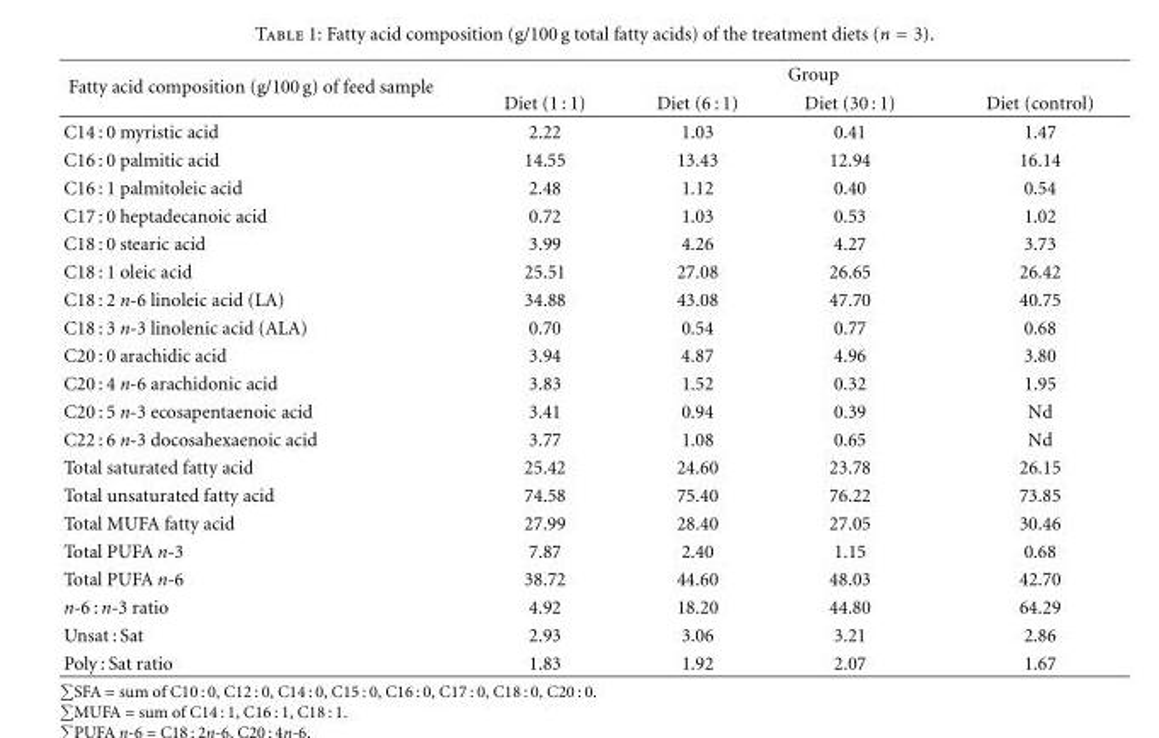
<table><thead><tr><td rowspan="2">Fatty acid composition (g/100 g) of feed sample</td><td colspan="4">Group</td></tr><tr><td>Diet (1 : 1)</td><td>Diet (6 : 1)</td><td>Diet (30 : 1)</td><td>Diet (control)</td></tr></thead><tbody><tr><td>C14 : 0 myristic acid</td><td>2.22</td><td>1.03</td><td>0.41</td><td>1.47</td></tr><tr><td>C16 : 0 palmitic acid</td><td>14.55</td><td>13.43</td><td>12.94</td><td>16.14</td></tr><tr><td>C16 : 1 palmitoleic acid</td><td>2.48</td><td>1.12</td><td>0.40</td><td>0.54</td></tr><tr><td>C17 : 0 heptadecanoic acid</td><td>0.72</td><td>1.03</td><td>0.53</td><td>1.02</td></tr><tr><td>C18 : 0 stearic acid</td><td>3.99</td><td>4.26</td><td>4.27</td><td>3.73</td></tr><tr><td>C18 : 1 oleic acid</td><td>25.51</td><td>27.08</td><td>26.65</td><td>26.42</td></tr><tr><td>C18 : 2 n-6 linoleic acid (LA)</td><td>34.88</td><td>43.08</td><td>47.70</td><td>40.75</td></tr><tr><td>C18 : 3 n-3 linolenic acid (ALA)</td><td>0.70</td><td>0.54</td><td>0.77</td><td>0.68</td></tr><tr><td>C20 : 0 arachidic acid</td><td>3.94</td><td>4.87</td><td>4.96</td><td>3.80</td></tr><tr><td>C20 : 4 n-6 arachidonic acid</td><td>3.83</td><td>1.52</td><td>0.32</td><td>1.95</td></tr><tr><td>C20 : 5 n-3 ecosapentaenoic acid</td><td>3.41</td><td>0.94</td><td>0.39</td><td>Nd</td></tr><tr><td>C22 : 6 n-3 docosahexaenoic acid</td><td>3.77</td><td>1.08</td><td>0.65</td><td>Nd</td></tr><tr><td>Total saturated fatty acid</td><td>25.42</td><td>24.60</td><td>23.78</td><td>26.15</td></tr><tr><td>Total unsaturated fatty acid</td><td>74.58</td><td>75.40</td><td>76.22</td><td>73.85</td></tr><tr><td>Total MUFA fatty acid</td><td>27.99</td><td>28.40</td><td>27.05</td><td>30.46</td></tr><tr><td>Total PUFA n-3</td><td>7.87</td><td>2.40</td><td>1.15</td><td>0.68</td></tr><tr><td>Total PUFA n-6</td><td>38.72</td><td>44.60</td><td>48.03</td><td>42.70</td></tr><tr><td>n-6 : n-3 ratio</td><td>4.92</td><td>18.20</td><td>44.80</td><td>64.29</td></tr><tr><td>Unsat : Sat</td><td>2.93</td><td>3.06</td><td>3.21</td><td>2.86</td></tr><tr><td>Poly : Sat ratio</td><td>1.83</td><td>1.92</td><td>2.07</td><td>1.67</td></tr></tbody></table>